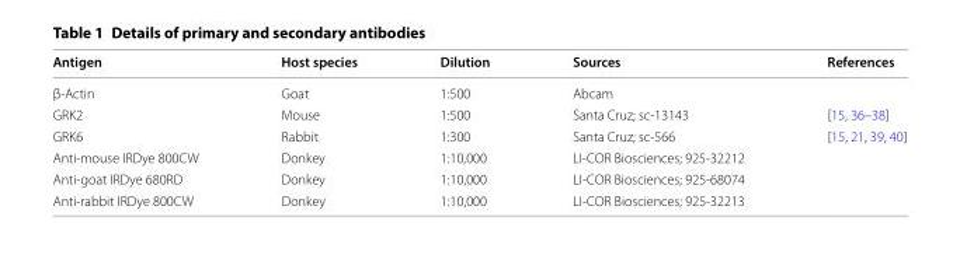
<table><thead><tr><td>Antigen</td><td>Host species</td><td>Dilution</td><td>Sources</td><td>References</td></tr></thead><tbody><tr><td>β-Actin</td><td>Goat</td><td>1:500</td><td>Abcam</td><td></td></tr><tr><td>GRK2</td><td>Mouse</td><td>1:500</td><td>Santa Cruz; sc-13143</td><td>[15, 36–38]</td></tr><tr><td>GRK6</td><td>Rabbit</td><td>1:300</td><td>Santa Cruz; sc-566</td><td>[15, 21, 39, 40]</td></tr><tr><td>Anti-mouse IRDye 800CW</td><td>Donkey</td><td>1:10,000</td><td>LI-COR Biosciences; 925-32212</td><td></td></tr><tr><td>Anti-goat IRDye 680RD</td><td>Donkey</td><td>1:10,000</td><td>LI-COR Biosciences; 925-68074</td><td></td></tr><tr><td>Anti-rabbit IRDye 800CW</td><td>Donkey</td><td>1:10,000</td><td>LI-COR Biosciences; 925-32213</td><td></td></tr></tbody></table>